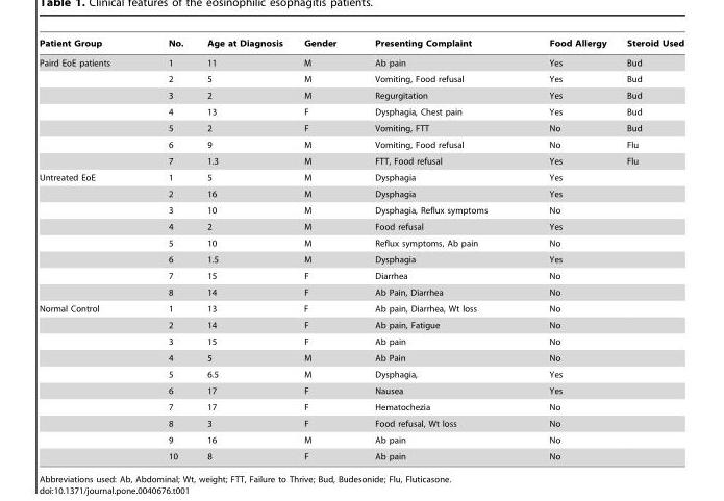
<table><thead><tr><td>Patient Group</td><td>No.</td><td>Age at Diagnosis</td><td>Gender</td><td>Presenting Complaint</td><td>Food Allergy</td><td>Steroid Used</td></tr></thead><tbody><tr><td rowspan="7">Paird EoE patients</td><td>1</td><td>11</td><td>M</td><td>Ab pain</td><td>Yes</td><td>Bud</td></tr><tr><td>2</td><td>5</td><td>M</td><td>Vomiting, Food refusal</td><td>Yes</td><td>Bud</td></tr><tr><td>3</td><td>2</td><td>M</td><td>Regurgitation</td><td>Yes</td><td>Bud</td></tr><tr><td>4</td><td>13</td><td>F</td><td>Dysphagia, Chest pain</td><td>Yes</td><td>Bud</td></tr><tr><td>5</td><td>2</td><td>F</td><td>Vomiting, FTT</td><td>No</td><td>Bud</td></tr><tr><td>6</td><td>9</td><td>M</td><td>Vomiting, Food refusal</td><td>No</td><td>Flu</td></tr><tr><td>7</td><td>1.3</td><td>M</td><td>FTT, Food refusal</td><td>Yes</td><td>Flu</td></tr><tr><td rowspan="8">Untreated EoE</td><td>1</td><td>5</td><td>M</td><td>Dysphagia</td><td>Yes</td><td></td></tr><tr><td>2</td><td>16</td><td>M</td><td>Dysphagia</td><td>Yes</td><td></td></tr><tr><td>3</td><td>10</td><td>M</td><td>Dysphagia, Reflux symptoms</td><td>No</td><td></td></tr><tr><td>4</td><td>2</td><td>M</td><td>Food refusal</td><td>Yes</td><td></td></tr><tr><td>5</td><td>10</td><td>M</td><td>Reflux symptoms, Ab pain</td><td>No</td><td></td></tr><tr><td>6</td><td>1.5</td><td>M</td><td>Dysphagia</td><td>Yes</td><td></td></tr><tr><td>7</td><td>15</td><td>F</td><td>Diarrhea</td><td>No</td><td></td></tr><tr><td>8</td><td>14</td><td>F</td><td>Ab Pain, Diarrhea</td><td>No</td><td></td></tr><tr><td rowspan="10">Normal Control</td><td>1</td><td>13</td><td>F</td><td>Ab pain, Diarrhea, Wt loss</td><td>No</td><td></td></tr><tr><td>2</td><td>14</td><td>F</td><td>Ab pain, Fatigue</td><td>No</td><td></td></tr><tr><td>3</td><td>15</td><td>F</td><td>Ab pain</td><td>No</td><td></td></tr><tr><td>4</td><td>5</td><td>M</td><td>Ab Pain</td><td>No</td><td></td></tr><tr><td>5</td><td>6.5</td><td>M</td><td>Dysphagia,</td><td>Yes</td><td></td></tr><tr><td>6</td><td>17</td><td>F</td><td>Nausea</td><td>Yes</td><td></td></tr><tr><td>7</td><td>17</td><td>F</td><td>Hematochezia</td><td>No</td><td></td></tr><tr><td>8</td><td>3</td><td>F</td><td>Food refusal, Wt loss</td><td>No</td><td></td></tr><tr><td>9</td><td>16</td><td>M</td><td>Ab pain</td><td>No</td><td></td></tr><tr><td>10</td><td>8</td><td>F</td><td>Ab pain</td><td>No</td><td></td></tr></tbody></table>